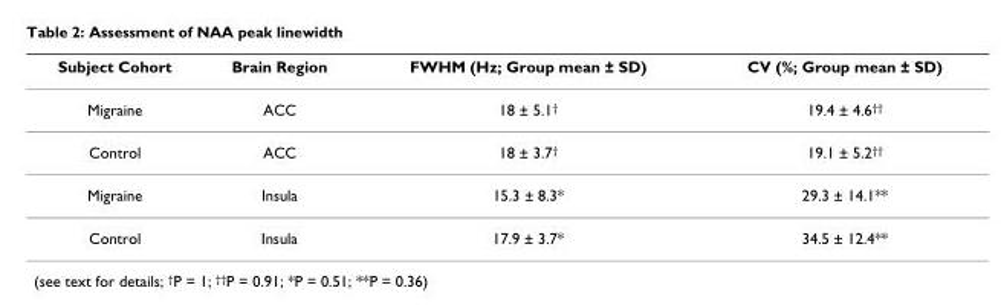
<table><thead><tr><td>Subject Cohort</td><td>Brain Region</td><td>FWHM (Hz; Group mean ± SD)</td><td>CV (%; Group mean ± SD)</td></tr></thead><tbody><tr><td>Migraine</td><td>ACC</td><td>18 ± 5.1<sup>†</sup></td><td>19.4 ± 4.6<sup>††</sup></td></tr><tr><td>Control</td><td>ACC</td><td>18 ± 3.7<sup>†</sup></td><td>19.1 ± 5.2<sup>††</sup></td></tr><tr><td>Migraine</td><td>Insula</td><td>15.3 ± 8.3*</td><td>29.3 ± 14.1**</td></tr><tr><td>Control</td><td>Insula</td><td>17.9 ± 3.7*</td><td>34.5 ± 12.4**</td></tr></tbody></table>